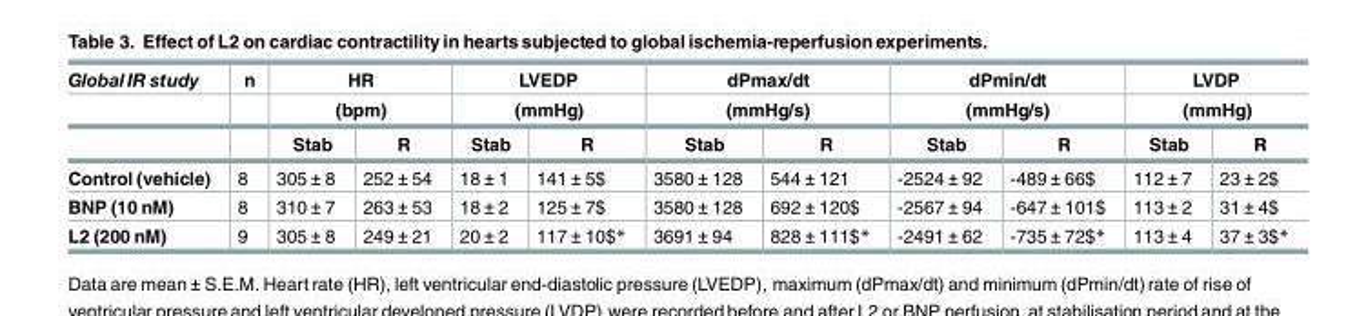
<table><thead><tr><td rowspan="3">Global IR study</td><td rowspan="3">n</td><td rowspan="2" colspan="2">HR (bpm)</td><td rowspan="2" colspan="2">LVEDP (mmHg)</td><td rowspan="2" colspan="2">dPmax/dt (mmHg/s)</td><td rowspan="2" colspan="2">dPmin/dt (mmHg/s)</td><td rowspan="2" colspan="2">LVDP (mmHg)</td></tr><tr></tr><tr><td>Stab</td><td>R</td><td>Stab</td><td>R</td><td>Stab</td><td>R</td><td>Stab</td><td>R</td><td>Stab</td><td>R</td></tr></thead><tbody><tr><td>Control (vehicle)</td><td>8</td><td>305 ± 8</td><td>252 ± 54</td><td>18 ± 1</td><td>141 ± 5$</td><td>3580 ± 128</td><td>544 ± 121</td><td>-2524 ± 92</td><td>-489 ± 66$</td><td>112 ± 7</td><td>23 ± 2$</td></tr><tr><td>BNP (10 nM)</td><td>8</td><td>310 ± 7</td><td>263 ± 53</td><td>18 ± 2</td><td>125 ± 7$</td><td>3580 ± 128</td><td>692 ± 120$</td><td>-2567 ± 94</td><td>-647 ± 101$</td><td>113 ± 2</td><td>31 ± 4$</td></tr><tr><td>L2 (200 nM)</td><td>9</td><td>305 ± 8</td><td>249 ± 21</td><td>20 ± 2</td><td>117 ± 10$*</td><td>3691 ± 94</td><td>828 ± 111$*</td><td>-2491 ± 62</td><td>-735 ± 72$*</td><td>113 ± 4</td><td>37 ± 3$*</td></tr></tbody></table>